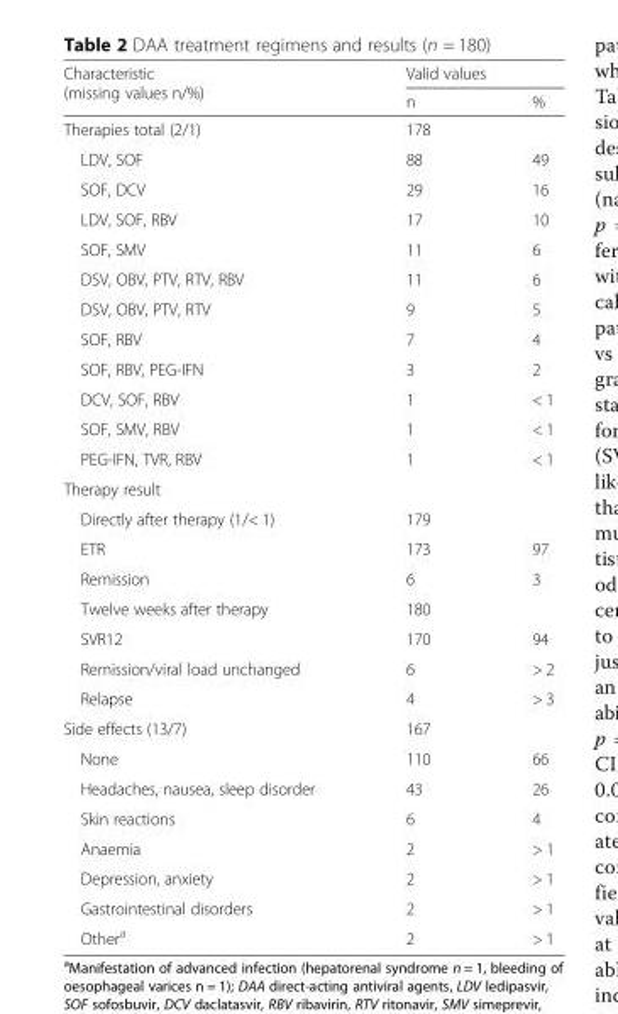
<table><thead><tr><td rowspan="2">Characteristic (missing values n/%)</td><td colspan="2">Valid values</td></tr><tr><td>n</td><td>%</td></tr></thead><tbody><tr><td>Therapies total (2/1)</td><td>178</td><td></td></tr><tr><td>LDV, SOF</td><td>88</td><td>49</td></tr><tr><td>SOF, DCV</td><td>29</td><td>16</td></tr><tr><td>LDV, SOF, RBV</td><td>17</td><td>10</td></tr><tr><td>SOF, SMV</td><td>11</td><td>6</td></tr><tr><td>DSV, OBV, PTV, RTV, RBV</td><td>11</td><td>6</td></tr><tr><td>DSV, OBV, PTV, RTV</td><td>9</td><td>5</td></tr><tr><td>SOF, RBV</td><td>7</td><td>4</td></tr><tr><td>SOF, RBV, PEG-IFN</td><td>3</td><td>2</td></tr><tr><td>DCV, SOF, RBV</td><td>1</td><td>&lt; 1</td></tr><tr><td>SOF, SMV, RBV</td><td>1</td><td>&lt; 1</td></tr><tr><td>PEG-IFN, TVR, RBV</td><td>1</td><td>&lt; 1</td></tr><tr><td colspan="3">Therapy result</td></tr><tr><td>Directly after therapy (1/&lt; 1)</td><td>179</td><td></td></tr><tr><td>ETR</td><td>173</td><td>97</td></tr><tr><td>Remission</td><td>6</td><td>3</td></tr><tr><td>Twelve weeks after therapy</td><td>180</td><td></td></tr><tr><td>SVR12</td><td>170</td><td>94</td></tr><tr><td>Remission/viral load unchanged</td><td>6</td><td>&gt; 2</td></tr><tr><td>Relapse</td><td>4</td><td>&gt; 3</td></tr><tr><td>Side effects (13/7)</td><td>167</td><td></td></tr><tr><td>None</td><td>110</td><td>66</td></tr><tr><td>Headaches, nausea, sleep disorder</td><td>43</td><td>26</td></tr><tr><td>Skin reactions</td><td>6</td><td>4</td></tr><tr><td>Anaemia</td><td>2</td><td>&gt; 1</td></tr><tr><td>Depression, anxiety</td><td>2</td><td>&gt; 1</td></tr><tr><td>Gastrointestinal disorders</td><td>2</td><td>&gt; 1</td></tr><tr><td>Other<sup>a</sup></td><td>2</td><td>&gt; 1</td></tr></tbody></table>